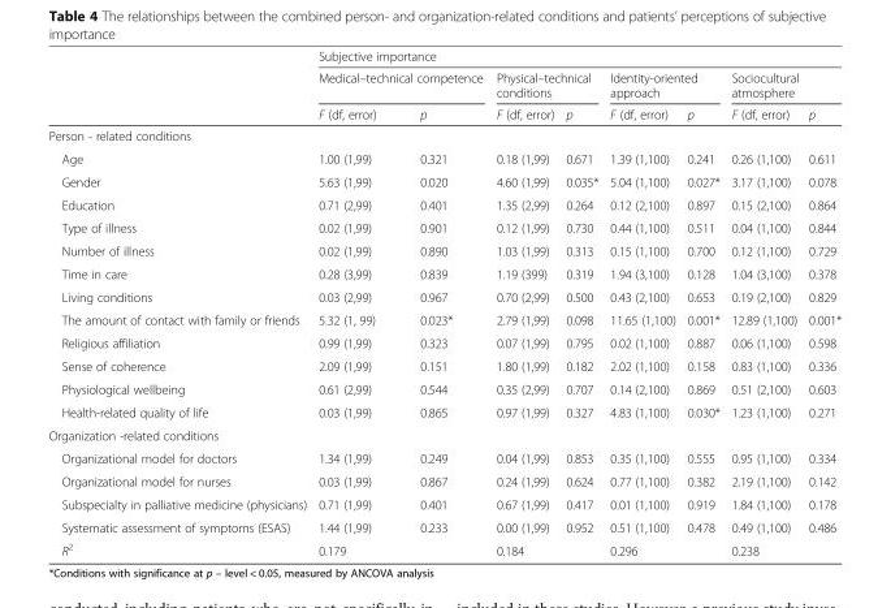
<table><thead><tr><td rowspan="3"></td><td colspan="8">Subjective importance</td></tr><tr><td colspan="2">Medical–technical competence</td><td colspan="2">Physical–technical conditions</td><td colspan="2">Identity-oriented approach</td><td colspan="2">Sociocultural atmosphere</td></tr><tr><td>F (df, error)</td><td>p</td><td>F (df, error)</td><td>p</td><td>F (df, error)</td><td>p</td><td>F (df, error)</td><td>p</td></tr></thead><tbody><tr><td colspan="9">Person - related conditions</td></tr><tr><td>Age</td><td>1.00 (1,99)</td><td>0.321</td><td>0.18 (1,99)</td><td>0.671</td><td>1.39 (1,100)</td><td>0.241</td><td>0.26 (1,100)</td><td>0.611</td></tr><tr><td>Gender</td><td>5.63 (1,99)</td><td>0.020</td><td>4.60 (1,99)</td><td>0.035*</td><td>5.04 (1,100)</td><td>0.027*</td><td>3.17 (1,100)</td><td>0.078</td></tr><tr><td>Education</td><td>0.71 (2,99)</td><td>0.401</td><td>1.35 (2,99)</td><td>0.264</td><td>0.12 (2,100)</td><td>0.897</td><td>0.15 (2,100)</td><td>0.864</td></tr><tr><td>Type of illness</td><td>0.02 (1,99)</td><td>0.901</td><td>0.12 (1,99)</td><td>0.730</td><td>0.44 (1,100)</td><td>0.511</td><td>0.04 (1,100)</td><td>0.844</td></tr><tr><td>Number of illness</td><td>0.02 (1,99)</td><td>0.890</td><td>1.03 (1,99)</td><td>0.313</td><td>0.15 (1,100)</td><td>0.700</td><td>0.12 (1,100)</td><td>0.729</td></tr><tr><td>Time in care</td><td>0.28 (3,99)</td><td>0.839</td><td>1.19 (399)</td><td>0.319</td><td>1.94 (3,100)</td><td>0.128</td><td>1.04 (3,100)</td><td>0.378</td></tr><tr><td>Living conditions</td><td>0.03 (2,99)</td><td>0.967</td><td>0.70 (2,99)</td><td>0.500</td><td>0.43 (2,100)</td><td>0.653</td><td>0.19 (2,100)</td><td>0.829</td></tr><tr><td>The amount of contact with family or friends</td><td>5.32 (1, 99)</td><td>0.023*</td><td>2.79 (1,99)</td><td>0.098</td><td>11.65 (1,100)</td><td>0.001*</td><td>12.89 (1,100)</td><td>0.001*</td></tr><tr><td>Religious affiliation</td><td>0.99 (1,99)</td><td>0.323</td><td>0.07 (1,99)</td><td>0.795</td><td>0.02 (1,100)</td><td>0.887</td><td>0.06 (1,100)</td><td>0.598</td></tr><tr><td>Sense of coherence</td><td>2.09 (1,99)</td><td>0.151</td><td>1.80 (1,99)</td><td>0.182</td><td>2.02 (1,100)</td><td>0.158</td><td>0.83 (1,100)</td><td>0.336</td></tr><tr><td>Physiological wellbeing</td><td>0.61 (2,99)</td><td>0.544</td><td>0.35 (2,99)</td><td>0.707</td><td>0.14 (2,100)</td><td>0.869</td><td>0.51 (2,100)</td><td>0.603</td></tr><tr><td>Health-related quality of life</td><td>0.03 (1,99)</td><td>0.865</td><td>0.97 (1,99)</td><td>0.327</td><td>4.83 (1,100)</td><td>0.030*</td><td>1.23 (1,100)</td><td>0.271</td></tr><tr><td colspan="9">Organization -related conditions</td></tr><tr><td>Organizational model for doctors</td><td>1.34 (1,99)</td><td>0.249</td><td>0.04 (1,99)</td><td>0.853</td><td>0.35 (1,100)</td><td>0.555</td><td>0.95 (1,100)</td><td>0.334</td></tr><tr><td>Organizational model for nurses</td><td>0.03 (1,99)</td><td>0.867</td><td>0.24 (1,99)</td><td>0.624</td><td>0.77 (1,100)</td><td>0.382</td><td>2.19 (1,100)</td><td>0.142</td></tr><tr><td>Subspecialty in palliative medicine (physicians)</td><td>0.71 (1,99)</td><td>0.401</td><td>0.67 (1,99)</td><td>0.417</td><td>0.01 (1,100)</td><td>0.919</td><td>1.84 (1,100)</td><td>0.178</td></tr><tr><td>Systematic assessment of symptoms (ESAS)</td><td>1.44 (1,99)</td><td>0.233</td><td>0.00 (1,99)</td><td>0.952</td><td>0.51 (1,100)</td><td>0.478</td><td>0.49 (1,100)</td><td>0.486</td></tr><tr><td>R<sup>2</sup></td><td>0.179</td><td></td><td>0.184</td><td></td><td>0.296</td><td></td><td>0.238</td><td></td></tr></tbody></table>